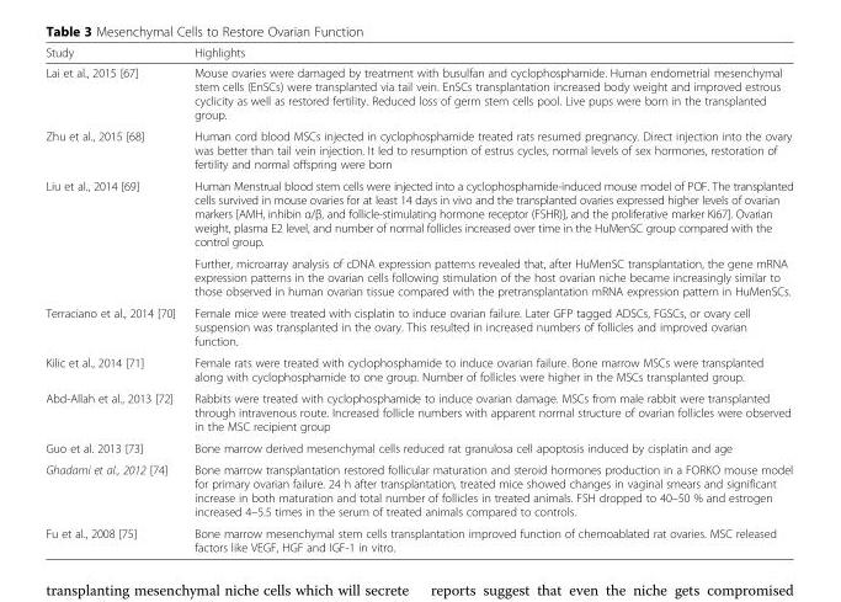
<table><thead><tr><td>Study</td><td>Highlights</td></tr></thead><tbody><tr><td>Lai et al., 2015 [67]</td><td>Mouse ovaries were damaged by treatment with busulfan and cyclophosphamide. Human endometrial mesenchymal stem cells (EnSCs) were transplanted via tail vein. EnSCs transplantation increased body weight and improved estrous cyclicity as well as restored fertility. Reduced loss of germ stem cells pool. Live pups were born in the transplanted group.</td></tr><tr><td>Zhu et al., 2015 [68]</td><td>Human cord blood MSCs injected in cyclophosphamide treated rats resumed pregnancy. Direct injection into the ovary was better than tail vein injection. It led to resumption of estrus cycles, normal levels of sex hormones, restoration of fertility and normal offspring were born</td></tr><tr><td rowspan="2">Liu et al., 2014 [69]</td><td>Human Menstrual blood stem cells were injected into a cyclophosphamide-induced mouse model of POF. The transplanted cells survived in mouse ovaries for at least 14 days in vivo and the transplanted ovaries expressed higher levels of ovarian markers [AMH, inhibin α/β, and follicle-stimulating hormone receptor (FSHR)], and the proliferative marker Ki67]. Ovarian weight, plasma E2 level, and number of normal follicles increased over time in the HuMenSC group compared with the control group.</td></tr><tr><td>Further, microarray analysis of cDNA expression patterns revealed that, after HuMenSC transplantation, the gene mRNA expression patterns in the ovarian cells following stimulation of the host ovarian niche became increasingly similar to those observed in human ovarian tissue compared with the pretransplantation mRNA expression pattern in HuMenSCs.</td></tr><tr><td>Terraciano et al., 2014 [70]</td><td>Female mice were treated with cisplatin to induce ovarian failure. Later GFP tagged ADSCs, FGSCs, or ovary cell suspension was transplanted in the ovary. This resulted in increased numbers of follicles and improved ovarian function.</td></tr><tr><td>Kilic et al., 2014 [71]</td><td>Female rats were treated with cyclophosphamide to induce ovarian failure. Bone marrow MSCs were transplanted along with cyclophosphamide to one group. Number of follicles were higher in the MSCs transplanted group.</td></tr><tr><td>Abd-Allah et al., 2013 [72]</td><td>Rabbits were treated with cyclophosphamide to induce ovarian damage. MSCs from male rabbit were transplanted through intravenous route. Increased follicle numbers with apparent normal structure of ovarian follicles were observed in the MSC recipient group</td></tr><tr><td>Guo et al. 2013 [73]</td><td>Bone marrow derived mesenchymal cells reduced rat granulosa cell apoptosis induced by cisplatin and age</td></tr><tr><td>Ghadami et al., 2012 [74]</td><td>Bone marrow transplantation restored follicular maturation and steroid hormones production in a FORKO mouse model for primary ovarian failure. 24 h after transplantation, treated mice showed changes in vaginal smears and significant increase in both maturation and total number of follicles in treated animals. FSH dropped to 40–50 % and estrogen increased 4–5.5 times in the serum of treated animals compared to controls.</td></tr><tr><td>Fu et al., 2008 [75]</td><td>Bone marrow mesenchymal stem cells transplantation improved function of chemoablated rat ovaries. MSC released factors like VEGF, HGF and IGF-1 in vitro.</td></tr></tbody></table>